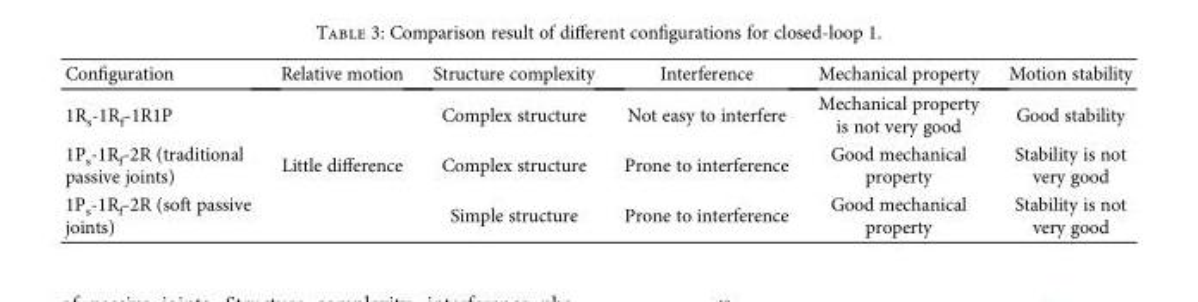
<table><thead><tr><td>Configuration</td><td>Relative motion</td><td>Structure complexity</td><td>Interference</td><td>Mechanical property</td><td>Motion stability</td></tr></thead><tbody><tr><td>1R<sub>s</sub>-1R<sub>f</sub>-1R1P</td><td rowspan="3">Little difference</td><td>Complex structure</td><td>Not easy to interfere</td><td>Mechanical property is not very good</td><td>Good stability</td></tr><tr><td>1P<sub>s</sub>-1R<sub>f</sub>-2R (traditional passive joints)</td><td>Complex structure</td><td>Prone to interference</td><td>Good mechanical property</td><td>Stability is not very good</td></tr><tr><td>1P<sub>s</sub>-1R<sub>f</sub>-2R (soft passive joints)</td><td>Simple structure</td><td>Prone to interference</td><td>Good mechanical property</td><td>Stability is not very good</td></tr></tbody></table>